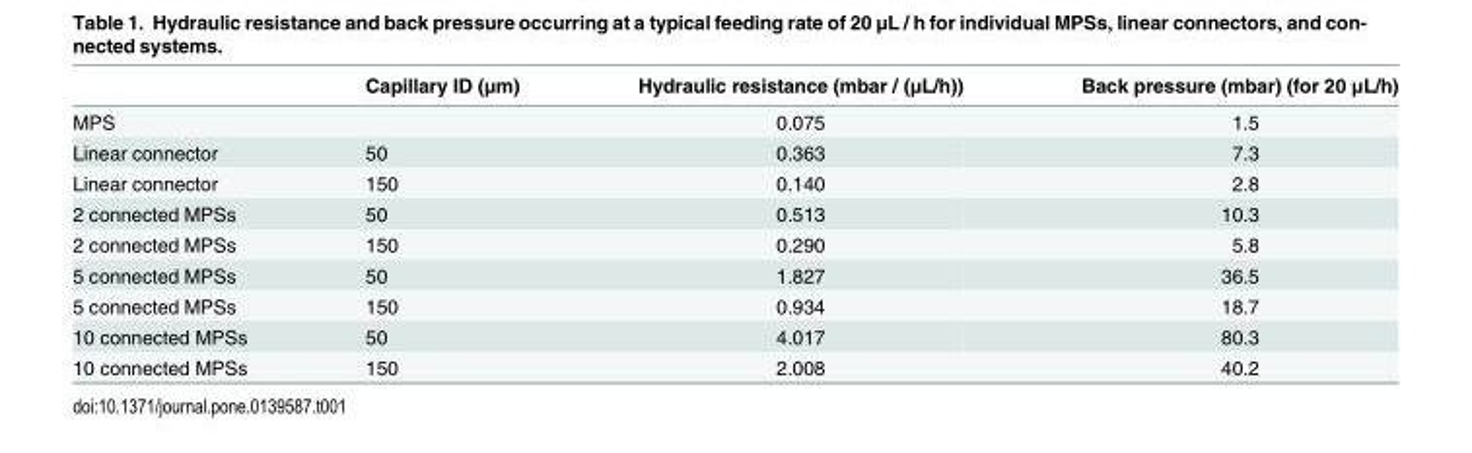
<table><thead><tr><td></td><td>Capillary ID (μm)</td><td>Hydraulic resistance (mbar / (μL/h))</td><td>Back pressure (mbar) (for 20 μL/h)</td></tr></thead><tbody><tr><td>MPS</td><td></td><td>0.075</td><td>1.5</td></tr><tr><td>Linear connector</td><td>50</td><td>0.363</td><td>7.3</td></tr><tr><td>Linear connector</td><td>150</td><td>0.140</td><td>2.8</td></tr><tr><td>2 connected MPSs</td><td>50</td><td>0.513</td><td>10.3</td></tr><tr><td>2 connected MPSs</td><td>150</td><td>0.290</td><td>5.8</td></tr><tr><td>5 connected MPSs</td><td>50</td><td>1.827</td><td>36.5</td></tr><tr><td>5 connected MPSs</td><td>150</td><td>0.934</td><td>18.7</td></tr><tr><td>10 connected MPSs</td><td>50</td><td>4.017</td><td>80.3</td></tr><tr><td>10 connected MPSs</td><td>150</td><td>2.008</td><td>40.2</td></tr></tbody></table>